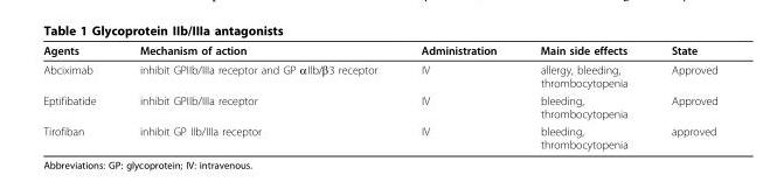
<table><thead><tr><td>Agents</td><td>Mechanism of action</td><td>Administration</td><td>Main side effects</td><td>State</td></tr></thead><tbody><tr><td>Abciximab</td><td>inhibit GPIIb/IIIa receptor and GP αIIb/β3 receptor</td><td>IV</td><td>allergy, bleeding, thrombocytopenia</td><td>Approved</td></tr><tr><td>Eptifibatide</td><td>inhibit GPIIb/IIIa receptor</td><td>IV</td><td>bleeding, thrombocytopenia</td><td>Approved</td></tr><tr><td>Tirofiban</td><td>inhibit GP IIb/IIIa receptor</td><td>IV</td><td>bleeding, thrombocytopenia</td><td>approved</td></tr></tbody></table>